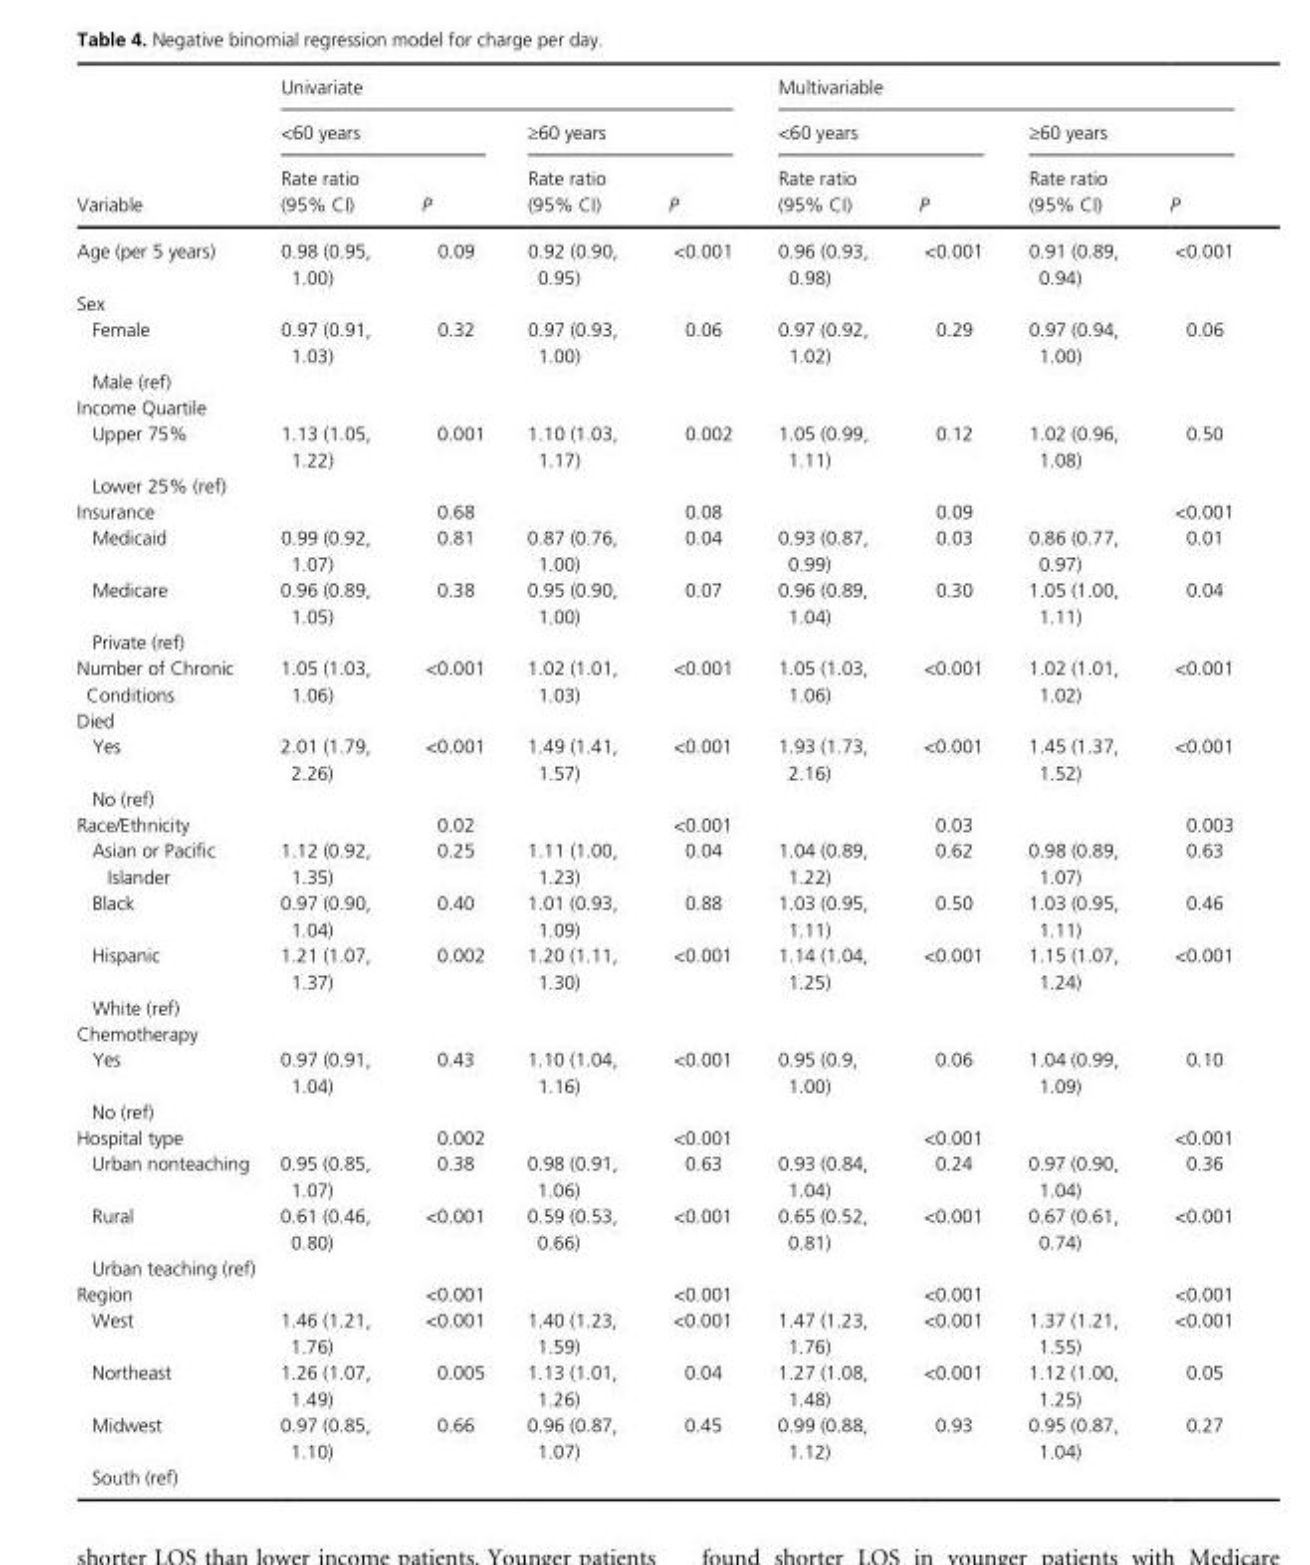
<table><thead><tr><td rowspan="3">Variable</td><td colspan="4">Univariate</td><td colspan="4">Multivariable</td></tr><tr><td colspan="2">&lt;60 years</td><td colspan="2">≥60 years</td><td colspan="2">&lt;60 years</td><td colspan="2">≥60 years</td></tr><tr><td>Rate ratio (95% CI)</td><td>P</td><td>Rate ratio (95% CI)</td><td>P</td><td>Rate ratio (95% CI)</td><td>P</td><td>Rate ratio (95% CI)</td><td>P</td></tr></thead><tbody><tr><td>Age (per 5 years)</td><td>0.98 (0.95, 1.00)</td><td>0.09</td><td>0.92 (0.90, 0.95)</td><td>&lt;0.001</td><td>0.96 (0.93, 0.98)</td><td>&lt;0.001</td><td>0.91 (0.89, 0.94)</td><td>&lt;0.001</td></tr><tr><td colspan="9">Sex</td></tr><tr><td>Female</td><td>0.97 (0.91, 1.03)</td><td>0.32</td><td>0.97 (0.93, 1.00)</td><td>0.06</td><td>0.97 (0.92, 1.02)</td><td>0.29</td><td>0.97 (0.94, 1.00)</td><td>0.06</td></tr><tr><td colspan="9">Male (ref)</td></tr><tr><td colspan="9">Income Quartile</td></tr><tr><td>Upper 75%</td><td>1.13 (1.05, 1.22)</td><td>0.001</td><td>1.10 (1.03, 1.17)</td><td>0.002</td><td>1.05 (0.99, 1.11)</td><td>0.12</td><td>1.02 (0.96, 1.08)</td><td>0.50</td></tr><tr><td colspan="9">Lower 25% (ref)</td></tr><tr><td>Insurance</td><td></td><td>0.68</td><td></td><td>0.08</td><td></td><td>0.09</td><td></td><td>&lt;0.001</td></tr><tr><td>Medicaid</td><td>0.99 (0.92, 1.07)</td><td>0.81</td><td>0.87 (0.76, 1.00)</td><td>0.04</td><td>0.93 (0.87, 0.99)</td><td>0.03</td><td>0.86 (0.77, 0.97)</td><td>0.01</td></tr><tr><td>Medicare</td><td>0.96 (0.89, 1.05)</td><td>0.38</td><td>0.95 (0.90, 1.00)</td><td>0.07</td><td>0.96 (0.89, 1.04)</td><td>0.30</td><td>1.05 (1.00, 1.11)</td><td>0.04</td></tr><tr><td colspan="9">Private (ref)</td></tr><tr><td>Number of Chronic Conditions</td><td>1.05 (1.03, 1.06)</td><td>&lt;0.001</td><td>1.02 (1.01, 1.03)</td><td>&lt;0.001</td><td>1.05 (1.03, 1.06)</td><td>&lt;0.001</td><td>1.02 (1.01, 1.02)</td><td>&lt;0.001</td></tr><tr><td colspan="9">Died</td></tr><tr><td>Yes</td><td>2.01 (1.79, 2.26)</td><td>&lt;0.001</td><td>1.49 (1.41, 1.57)</td><td>&lt;0.001</td><td>1.93 (1.73, 2.16)</td><td>&lt;0.001</td><td>1.45 (1.37, 1.52)</td><td>&lt;0.001</td></tr><tr><td colspan="9">No (ref)</td></tr><tr><td>Race/Ethnicity</td><td></td><td>0.02</td><td></td><td>&lt;0.001</td><td></td><td>0.03</td><td></td><td>0.003</td></tr><tr><td>Asian or Pacific Islander</td><td>1.12 (0.92, 1.35)</td><td>0.25</td><td>1.11 (1.00, 1.23)</td><td>0.04</td><td>1.04 (0.89, 1.22)</td><td>0.62</td><td>0.98 (0.89, 1.07)</td><td>0.63</td></tr><tr><td>Black</td><td>0.97 (0.90, 1.04)</td><td>0.40</td><td>1.01 (0.93, 1.09)</td><td>0.88</td><td>1.03 (0.95, 1.11)</td><td>0.50</td><td>1.03 (0.95, 1.11)</td><td>0.46</td></tr><tr><td>Hispanic</td><td>1.21 (1.07, 1.37)</td><td>0.002</td><td>1.20 (1.11, 1.30)</td><td>&lt;0.001</td><td>1.14 (1.04, 1.25)</td><td>&lt;0.001</td><td>1.15 (1.07, 1.24)</td><td>&lt;0.001</td></tr><tr><td colspan="9">White (ref)</td></tr><tr><td colspan="9">Chemotherapy</td></tr><tr><td>Yes</td><td>0.97 (0.91, 1.04)</td><td>0.43</td><td>1.10 (1.04, 1.16)</td><td>&lt;0.001</td><td>0.95 (0.9, 1.00)</td><td>0.06</td><td>1.04 (0.99, 1.09)</td><td>0.10</td></tr><tr><td colspan="9">No (ref)</td></tr><tr><td>Hospital type</td><td></td><td>0.002</td><td></td><td>&lt;0.001</td><td></td><td>&lt;0.001</td><td></td><td>&lt;0.001</td></tr><tr><td>Urban nonteaching</td><td>0.95 (0.85, 1.07)</td><td>0.38</td><td>0.98 (0.91, 1.06)</td><td>0.63</td><td>0.93 (0.84, 1.04)</td><td>0.24</td><td>0.97 (0.90, 1.04)</td><td>0.36</td></tr><tr><td>Rural</td><td>0.61 (0.46, 0.80)</td><td>&lt;0.001</td><td>0.59 (0.53, 0.66)</td><td>&lt;0.001</td><td>0.65 (0.52, 0.81)</td><td>&lt;0.001</td><td>0.67 (0.61, 0.74)</td><td>&lt;0.001</td></tr><tr><td colspan="9">Urban teaching (ref)</td></tr><tr><td>Region</td><td></td><td>&lt;0.001</td><td></td><td>&lt;0.001</td><td></td><td>&lt;0.001</td><td></td><td>&lt;0.001</td></tr><tr><td>West</td><td>1.46 (1.21, 1.76)</td><td>&lt;0.001</td><td>1.40 (1.23, 1.59)</td><td>&lt;0.001</td><td>1.47 (1.23, 1.76)</td><td>&lt;0.001</td><td>1.37 (1.21, 1.55)</td><td>&lt;0.001</td></tr><tr><td>Northeast</td><td>1.26 (1.07, 1.49)</td><td>0.005</td><td>1.13 (1.01, 1.26)</td><td>0.04</td><td>1.27 (1.08, 1.48)</td><td>&lt;0.001</td><td>1.12 (1.00, 1.25)</td><td>0.05</td></tr><tr><td>Midwest</td><td>0.97 (0.85, 1.10)</td><td>0.66</td><td>0.96 (0.87, 1.07)</td><td>0.45</td><td>0.99 (0.88, 1.12)</td><td>0.93</td><td>0.95 (0.87, 1.04)</td><td>0.27</td></tr><tr><td>South (ref)</td><td></td><td></td><td></td><td></td><td></td><td></td><td></td><td></td></tr></tbody></table>